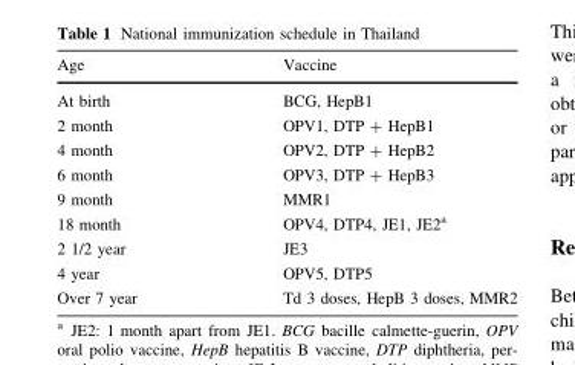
<table><thead><tr><td>Age</td><td>Vaccine</td></tr></thead><tbody><tr><td>At birth</td><td>BCG, HepB1</td></tr><tr><td>2 month</td><td>OPV1, DTP + HepB1</td></tr><tr><td>4 month</td><td>OPV2, DTP + HepB2</td></tr><tr><td>6 month</td><td>OPV3, DTP + HepB3</td></tr><tr><td>9 month</td><td>MMR1</td></tr><tr><td>18 month</td><td>OPV4, DTP4, JE1, JE2<sup>a</sup></td></tr><tr><td>2 1/2 year</td><td>JE3</td></tr><tr><td>4 year</td><td>OPV5, DTP5</td></tr><tr><td>Over 7 year</td><td>Td 3 doses, HepB 3 doses, MMR2</td></tr></tbody></table>